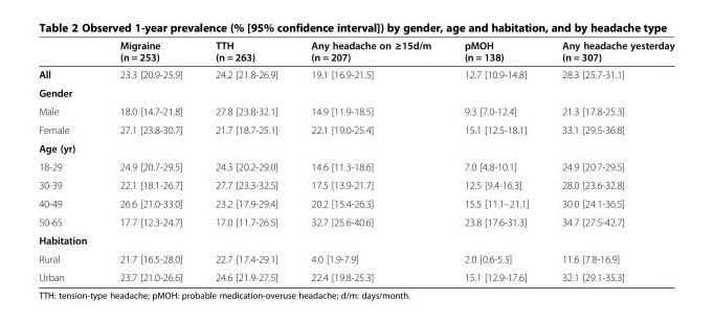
<table><thead><tr><td></td><td>Migraine (n = 253)</td><td>TTH (n = 263)</td><td>Any headache on ≥15d/m (n = 207)</td><td>pMOH (n = 138)</td><td>Any headache yesterday (n = 307)</td></tr></thead><tbody><tr><td>All</td><td>23.3 [20.9-25.9]</td><td>24.2 [21.8-26.9]</td><td>19.1 [16.9-21.5]</td><td>12.7 [10.9-14.8]</td><td>28.3 [25.7-31.1]</td></tr><tr><td colspan="6">Gender</td></tr><tr><td>Male</td><td>18.0 [14.7-21.8]</td><td>27.8 [23.8-32.1]</td><td>14.9 [11.9-18.5]</td><td>9.3 [7.0-12.4]</td><td>21.3 [17.8-25.3]</td></tr><tr><td>Female</td><td>27.1 [23.8-30.7]</td><td>21.7 [18.7-25.1]</td><td>22.1 [19.0-25.4]</td><td>15.1 [12.5-18.1]</td><td>33.1 [29.5-36.8]</td></tr><tr><td colspan="6">Age (yr)</td></tr><tr><td>18-29</td><td>24.9 [20.7-29.5]</td><td>24.3 [20.2-29.0]</td><td>14.6 [11.3-18.6]</td><td>7.0 [4.8-10.1]</td><td>24.9 [20.7-29.5]</td></tr><tr><td>30-39</td><td>22.1 [18.1-26.7]</td><td>27.7 [23.3-32.5]</td><td>17.5 [13.9-21.7]</td><td>12.5 [9.4-16.3]</td><td>28.0 [23.6-32.8]</td></tr><tr><td>40-49</td><td>26.6 [21.0-33.0]</td><td>23.2 [17.9-29.4]</td><td>20.2 [15.4-26.3]</td><td>15.5 [11.1–21.1]</td><td>30.0 [24.1-36.5]</td></tr><tr><td>50-65</td><td>17.7 [12.3-24.7]</td><td>17.0 [11.7-26.5]</td><td>32.7 [25.6-40.6]</td><td>23.8 [17.6-31.3]</td><td>34.7 [27.5-42.7]</td></tr><tr><td colspan="6">Habitation</td></tr><tr><td>Rural</td><td>21.7 [16.5-28.0]</td><td>22.7 [17.4-29.1]</td><td>4.0 [1.9-7.9]</td><td>2.0 [0.6-5.3]</td><td>11.6 [7.8-16.9]</td></tr><tr><td>Urban</td><td>23.7 [21.0-26.6]</td><td>24.6 [21.9-27.5]</td><td>22.4 [19.8-25.3]</td><td>15.1 [12.9-17.6]</td><td>32.1 [29.1-35.3]</td></tr></tbody></table>